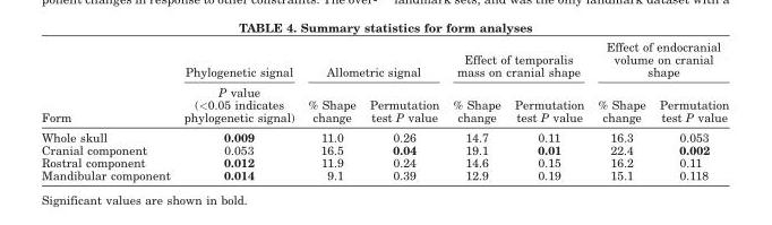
<table><thead><tr><td rowspan="2">Form</td><td rowspan="2">Phylogenetic signal P value (&lt;0.05 indicates phylogenetic signal)</td><td colspan="2">Allometric signal</td><td colspan="2">Effect of temporalis mass on cranial shape</td><td colspan="2">Effect of endocranial volume on cranial shape</td></tr><tr><td>% Shape change</td><td>Permutation test P value</td><td>% Shape change</td><td>Permutation test P value</td><td>% Shape change</td><td>Permutation test P value</td></tr></thead><tbody><tr><td>Whole skull</td><td>0.009</td><td>11.0</td><td>0.26</td><td>14.7</td><td>0.11</td><td>16.3</td><td>0.053</td></tr><tr><td>Cranial component</td><td>0.053</td><td>16.5</td><td>0.04</td><td>19.1</td><td>0.01</td><td>22.4</td><td>0.002</td></tr><tr><td>Rostral component</td><td>0.012</td><td>11.9</td><td>0.24</td><td>14.6</td><td>0.15</td><td>16.2</td><td>0.11</td></tr><tr><td>Mandibular component</td><td>0.014</td><td>9.1</td><td>0.39</td><td>12.9</td><td>0.19</td><td>15.1</td><td>0.118</td></tr></tbody></table>